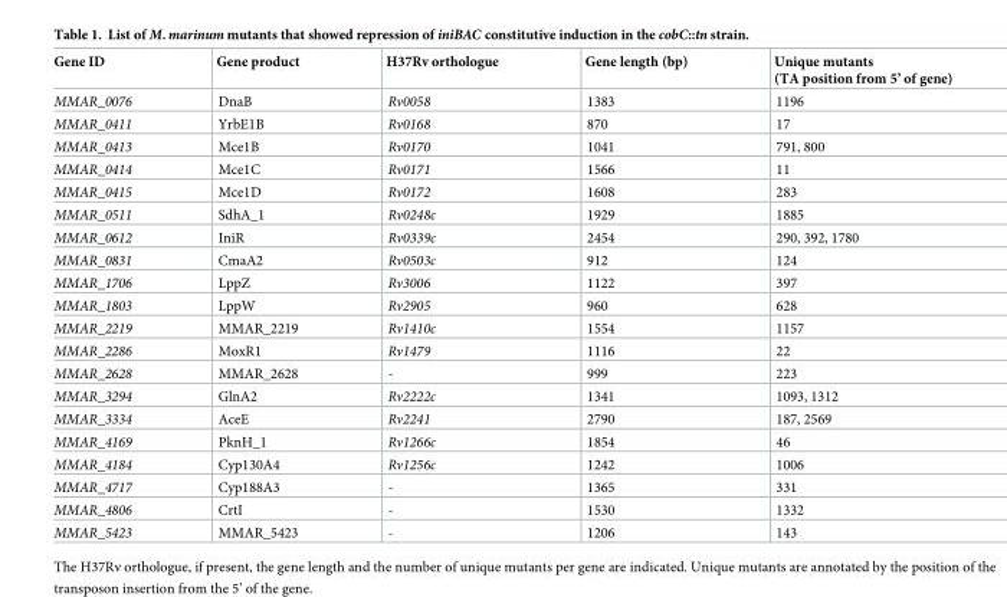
<table><thead><tr><td>Gene ID</td><td>Gene product</td><td>H37Rv orthologue</td><td>Gene length (bp)</td><td>Unique mutants (TA position from 5’ of gene)</td></tr></thead><tbody><tr><td>MMAR_0076</td><td>DnaB</td><td>Rv0058</td><td>1383</td><td>1196</td></tr><tr><td>MMAR_0411</td><td>YrbE1B</td><td>Rv0168</td><td>870</td><td>17</td></tr><tr><td>MMAR_0413</td><td>Mce1B</td><td>Rv0170</td><td>1041</td><td>791, 800</td></tr><tr><td>MMAR_0414</td><td>Mce1C</td><td>Rv0171</td><td>1566</td><td>11</td></tr><tr><td>MMAR_0415</td><td>Mce1D</td><td>Rv0172</td><td>1608</td><td>283</td></tr><tr><td>MMAR_0511</td><td>SdhA_1</td><td>Rv0248c</td><td>1929</td><td>1885</td></tr><tr><td>MMAR_0612</td><td>IniR</td><td>Rv0339c</td><td>2454</td><td>290, 392, 1780</td></tr><tr><td>MMAR_0831</td><td>CmaA2</td><td>Rv0503c</td><td>912</td><td>124</td></tr><tr><td>MMAR_1706</td><td>LppZ</td><td>Rv3006</td><td>1122</td><td>397</td></tr><tr><td>MMAR_1803</td><td>LppW</td><td>Rv2905</td><td>960</td><td>628</td></tr><tr><td>MMAR_2219</td><td>MMAR_2219</td><td>Rv1410c</td><td>1554</td><td>1157</td></tr><tr><td>MMAR_2286</td><td>MoxR1</td><td>Rv1479</td><td>1116</td><td>22</td></tr><tr><td>MMAR_2628</td><td>MMAR_2628</td><td>-</td><td>999</td><td>223</td></tr><tr><td>MMAR_3294</td><td>GlnA2</td><td>Rv2222c</td><td>1341</td><td>1093, 1312</td></tr><tr><td>MMAR_3334</td><td>AceE</td><td>Rv2241</td><td>2790</td><td>187, 2569</td></tr><tr><td>MMAR_4169</td><td>PknH_1</td><td>Rv1266c</td><td>1854</td><td>46</td></tr><tr><td>MMAR_4184</td><td>Cyp130A4</td><td>Rv1256c</td><td>1242</td><td>1006</td></tr><tr><td>MMAR_4717</td><td>Cyp188A3</td><td>-</td><td>1365</td><td>331</td></tr><tr><td>MMAR_4806</td><td>CrtI</td><td>-</td><td>1530</td><td>1332</td></tr><tr><td>MMAR_5423</td><td>MMAR_5423</td><td>-</td><td>1206</td><td>143</td></tr></tbody></table>